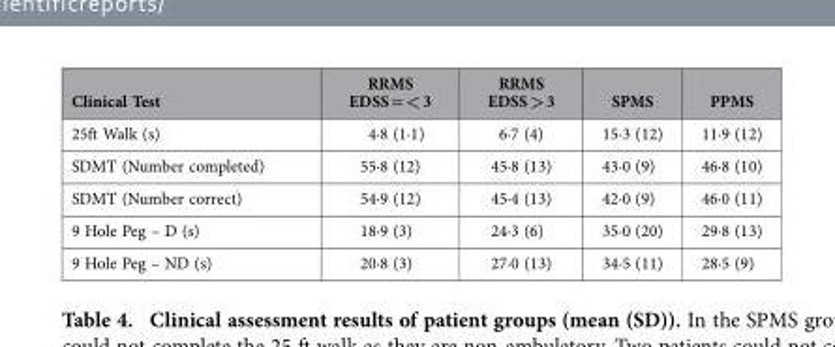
<table><thead><tr><td>Clinical Test</td><td>RRMS EDSS = &lt; 3</td><td>RRMS EDSS &gt; 3</td><td>SPMS</td><td>PPMS</td></tr></thead><tbody><tr><td>25ft Walk (s)</td><td>4·8 (1·1)</td><td>6·7 (4)</td><td>15·3 (12)</td><td>11·9 (12)</td></tr><tr><td>SDMT (Number completed)</td><td>55·8 (12)</td><td>45·8 (13)</td><td>43·0 (9)</td><td>46·8 (10)</td></tr><tr><td>SDMT (Number correct)</td><td>54·9 (12)</td><td>45·4 (13)</td><td>42·0 (9)</td><td>46·0 (11)</td></tr><tr><td>9 Hole Peg – D (s)</td><td>18·9 (3)</td><td>24·3 (6)</td><td>35·0 (20)</td><td>29·8 (13)</td></tr><tr><td>9 Hole Peg – ND (s)</td><td>20·8 (3)</td><td>27·0 (13)</td><td>34·5 (11)</td><td>28·5 (9)</td></tr></tbody></table>